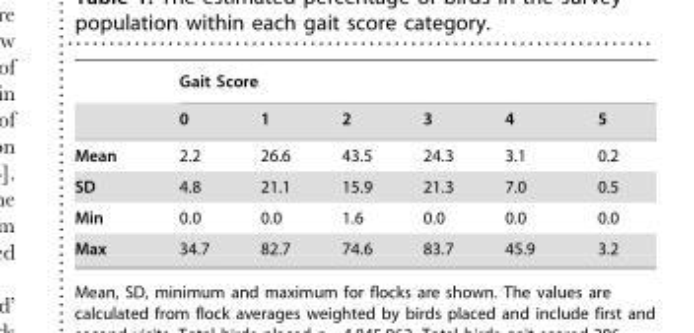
<table><thead><tr><td rowspan="2"></td><td colspan="6">Gait Score</td></tr><tr><td>0</td><td>1</td><td>2</td><td>3</td><td>4</td><td>5</td></tr></thead><tbody><tr><td>Mean</td><td>2.2</td><td>26.6</td><td>43.5</td><td>24.3</td><td>3.1</td><td>0.2</td></tr><tr><td>SD</td><td>4.8</td><td>21.1</td><td>15.9</td><td>21.3</td><td>7.0</td><td>0.5</td></tr><tr><td>Min</td><td>0.0</td><td>0.0</td><td>1.6</td><td>0.0</td><td>0.0</td><td>0.0</td></tr><tr><td>Max</td><td>34.7</td><td>82.7</td><td>74.6</td><td>83.7</td><td>45.9</td><td>3.2</td></tr></tbody></table>